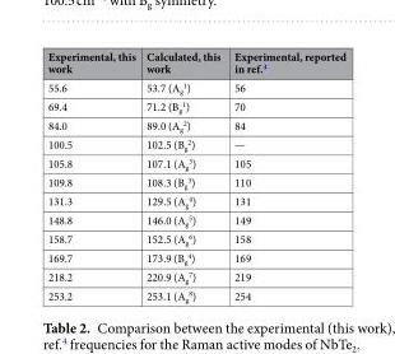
<table><thead><tr><td>Experimental, this work</td><td>Calculated, this work</td><td>Experimental, reported in ref.<sup>4</sup></td></tr></thead><tbody><tr><td>55.6</td><td>53.7 (A<sub>g</sub> <sup>1</sup>)</td><td>56</td></tr><tr><td>69.4</td><td>71.2 (B<sub>g</sub> <sup>1</sup>)</td><td>70</td></tr><tr><td>84.0</td><td>89.0 (A<sub>g</sub> <sup>2</sup>)</td><td>84</td></tr><tr><td>100.5</td><td>102.5 (B<sub>g</sub> <sup>2</sup>)</td><td>—</td></tr><tr><td>105.8</td><td>107.1 (A<sub>g</sub> <sup>3</sup>)</td><td>105</td></tr><tr><td>109.8</td><td>108.3 (B<sub>g</sub> <sup>3</sup>)</td><td>110</td></tr><tr><td>131.3</td><td>129.5 (A<sub>g</sub> <sup>4</sup>)</td><td>131</td></tr><tr><td>148.8</td><td>146.0 (A<sub>g</sub> <sup>5</sup>)</td><td>149</td></tr><tr><td>158.7</td><td>152.5 (A<sub>g</sub> <sup>6</sup>)</td><td>158</td></tr><tr><td>169.7</td><td>173.9 (B<sub>g</sub> <sup>4</sup>)</td><td>169</td></tr><tr><td>218.2</td><td>220.9 (A<sub>g</sub> <sup>7</sup>)</td><td>219</td></tr><tr><td>253.2</td><td>253.1 (A<sub>g</sub> <sup>8</sup>)</td><td>254</td></tr></tbody></table>